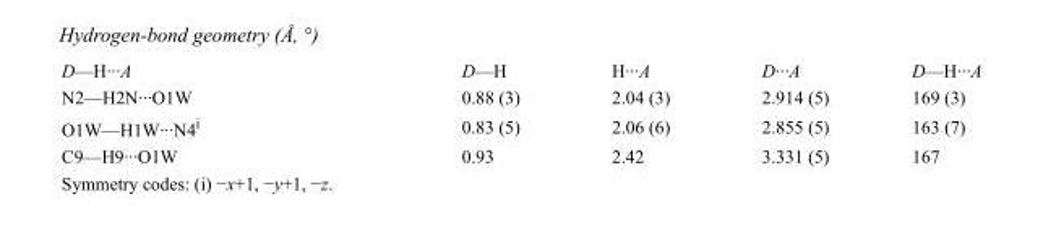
<table><tbody><tr><td>D—H···A</td><td>D—H</td><td>H···A</td><td>D···A</td><td>D—H···A</td></tr><tr><td>N2—H2N···O1W</td><td>0.88 (3)</td><td>2.04 (3)</td><td>2.914 (5)</td><td>169 (3)</td></tr><tr><td>O1W—H1W···N4<sup>i</sup></td><td>0.83 (5)</td><td>2.06 (6)</td><td>2.855 (5)</td><td>163 (7)</td></tr><tr><td>C9—H9···O1W</td><td>0.93</td><td>2.42</td><td>3.331 (5)</td><td>167</td></tr></tbody></table>